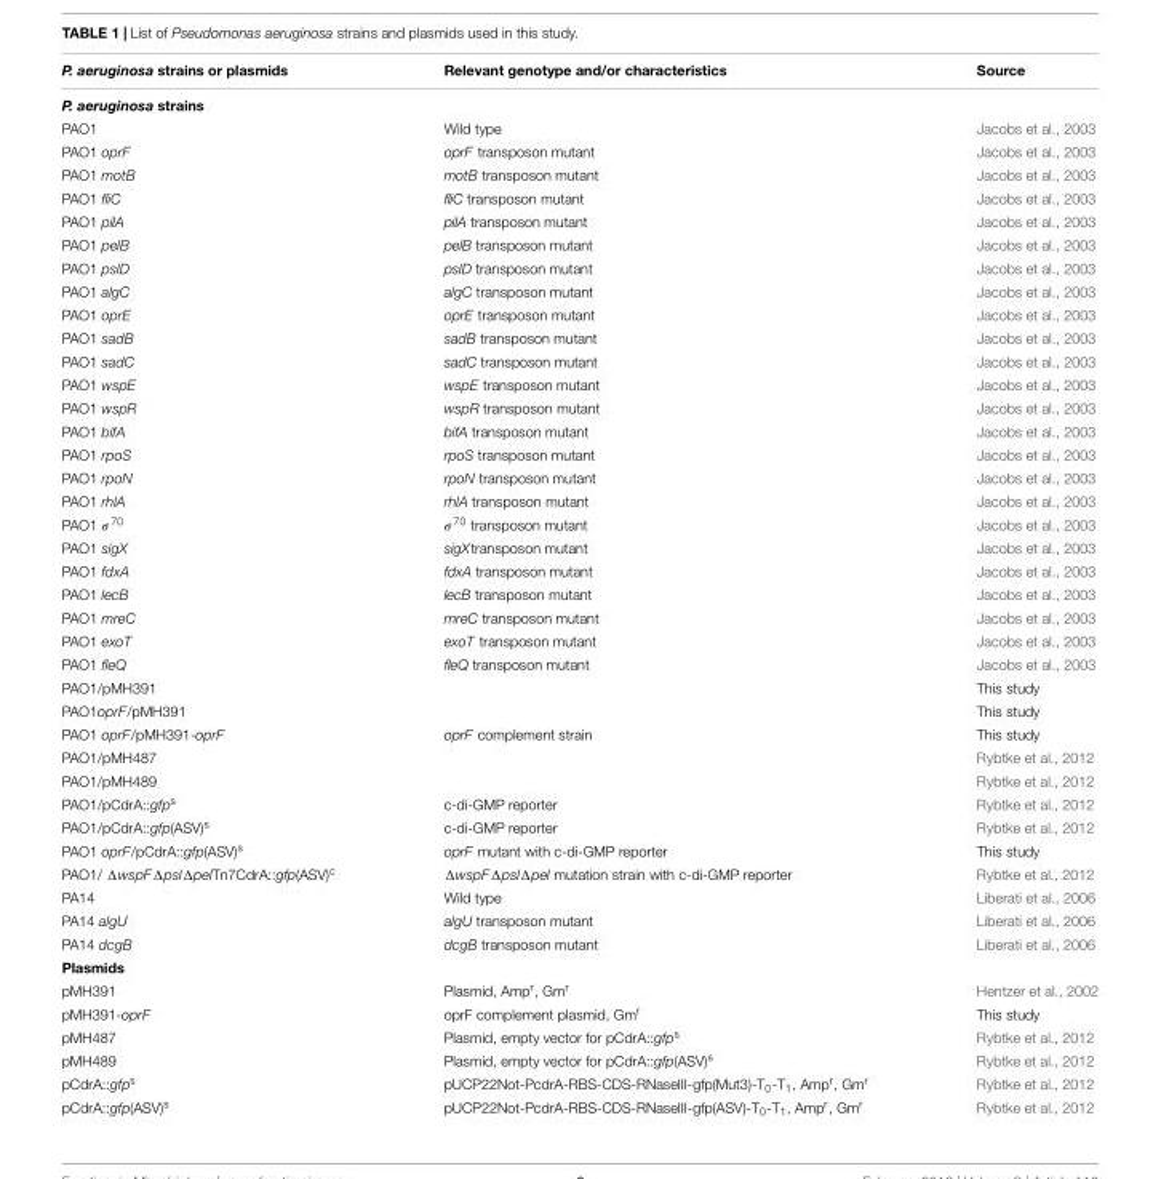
<table><thead><tr><td>P. aeruginosa strains or plasmids</td><td>Relevant genotype and/or characteristics</td><td>Source</td></tr></thead><tbody><tr><td colspan="3">P. aeruginosa strains</td></tr><tr><td>PAO1</td><td>Wild type</td><td>Jacobs et al., 2003</td></tr><tr><td>PAO1 oprF</td><td>oprF transposon mutant</td><td>Jacobs et al., 2003</td></tr><tr><td>PAO1 motB</td><td>motB transposon mutant</td><td>Jacobs et al., 2003</td></tr><tr><td>PAO1 fliC</td><td>fliC transposon mutant</td><td>Jacobs et al., 2003</td></tr><tr><td>PAO1 pilA</td><td>pilA transposon mutant</td><td>Jacobs et al., 2003</td></tr><tr><td>PAO1 pelB</td><td>pelB transposon mutant</td><td>Jacobs et al., 2003</td></tr><tr><td>PAO1 pslD</td><td>pslD transposon mutant</td><td>Jacobs et al., 2003</td></tr><tr><td>PAO1 algC</td><td>algC transposon mutant</td><td>Jacobs et al., 2003</td></tr><tr><td>PAO1 oprE</td><td>oprE transposon mutant</td><td>Jacobs et al., 2003</td></tr><tr><td>PAO1 sadB</td><td>sadB transposon mutant</td><td>Jacobs et al., 2003</td></tr><tr><td>PAO1 sadC</td><td>sadC transposon mutant</td><td>Jacobs et al., 2003</td></tr><tr><td>PAO1 wspE</td><td>wspE transposon mutant</td><td>Jacobs et al., 2003</td></tr><tr><td>PAO1 wspR</td><td>wspR transposon mutant</td><td>Jacobs et al., 2003</td></tr><tr><td>PAO1 bifA</td><td>bifA transposon mutant</td><td>Jacobs et al., 2003</td></tr><tr><td>PAO1 rpoS</td><td>rpoS transposon mutant</td><td>Jacobs et al., 2003</td></tr><tr><td>PAO1 rpoN</td><td>rpoN transposon mutant</td><td>Jacobs et al., 2003</td></tr><tr><td>PAO1 rhlA</td><td>rhlA transposon mutant</td><td>Jacobs et al., 2003</td></tr><tr><td>PAO1 σ <sup>70</sup></td><td>σ <sup>70</sup> transposon mutant</td><td>Jacobs et al., 2003</td></tr><tr><td>PAO1 sigX</td><td>sigXtransposon mutant</td><td>Jacobs et al., 2003</td></tr><tr><td>PAO1 fdxA</td><td>fdxA transposon mutant</td><td>Jacobs et al., 2003</td></tr><tr><td>PAO1 lecB</td><td>lecB transposon mutant</td><td>Jacobs et al., 2003</td></tr><tr><td>PAO1 mreC</td><td>mreC transposon mutant</td><td>Jacobs et al., 2003</td></tr><tr><td>PAO1 exoT</td><td>exoT transposon mutant</td><td>Jacobs et al., 2003</td></tr><tr><td>PAO1 fleQ</td><td>fleQ transposon mutant</td><td>Jacobs et al., 2003</td></tr><tr><td>PAO1/pMH391</td><td></td><td>This study</td></tr><tr><td>PAO1oprF/pMH391</td><td></td><td>This study</td></tr><tr><td>PAO1 oprF/pMH391-oprF</td><td>oprF complement strain</td><td>This study</td></tr><tr><td>PAO1/pMH487</td><td></td><td>Rybtke et al., 2012</td></tr><tr><td>PAO1/pMH489</td><td></td><td>Rybtke et al., 2012</td></tr><tr><td>PAO1/pCdrA::gfp<sup>s</sup></td><td>c-di-GMP reporter</td><td>Rybtke et al., 2012</td></tr><tr><td>PAO1/pCdrA::gfp(ASV)<sup>s</sup></td><td>c-di-GMP reporter</td><td>Rybtke et al., 2012</td></tr><tr><td>PAO1 oprF/pCdrA::gfp(ASV)<sup>s</sup></td><td>oprF mutant with c-di-GMP reporter</td><td>This study</td></tr><tr><td>PAO1/ ΔwspFΔpslΔpelTn7CdrA::gfp(ASV)<sup>c</sup></td><td>ΔwspFΔpslΔpel mutation strain with c-di-GMP reporter</td><td>Rybtke et al., 2012</td></tr><tr><td>PA14</td><td>Wild type</td><td>Liberati et al., 2006</td></tr><tr><td>PA14 algU</td><td>algU transposon mutant</td><td>Liberati et al., 2006</td></tr><tr><td>PA14 dcgB</td><td>dcgB transposon mutant</td><td>Liberati et al., 2006</td></tr><tr><td colspan="3">Plasmids</td></tr><tr><td>pMH391</td><td>Plasmid, Amp<sup>r</sup>, Gm<sup>r</sup></td><td>Hentzer et al., 2002</td></tr><tr><td>pMH391-oprF</td><td>oprF complement plasmid, Gm<sup>r</sup></td><td>This study</td></tr><tr><td>pMH487</td><td>Plasmid, empty vector for pCdrA::gfp<sup>s</sup></td><td>Rybtke et al., 2012</td></tr><tr><td>pMH489</td><td>Plasmid, empty vector for pCdrA::gfp(ASV)<sup>s</sup></td><td>Rybtke et al., 2012</td></tr><tr><td>pCdrA::gfp<sup>s</sup></td><td>pUCP22Not-PcdrA-RBS-CDS-RNaseIII-gfp(Mut3)-T<sub>0</sub>-T<sub>1</sub>, Amp<sup>r</sup>, Gm<sup>r</sup></td><td>Rybtke et al., 2012</td></tr><tr><td>pCdrA::gfp(ASV)<sup>s</sup></td><td>pUCP22Not-PcdrA-RBS-CDS-RNaseIII-gfp(ASV)-T<sub>0</sub>-T<sub>1</sub>, Amp<sup>r</sup>, Gm<sup>r</sup></td><td>Rybtke et al., 2012</td></tr></tbody></table>